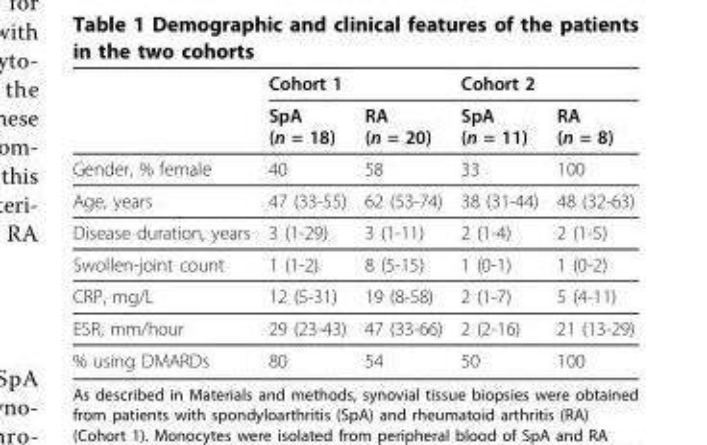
<table><thead><tr><td rowspan="2"></td><td colspan="2">Cohort 1</td><td colspan="2">Cohort 2</td></tr><tr><td>SpA (n = 18)</td><td>RA (n = 20)</td><td>SpA (n = 11)</td><td>RA (n = 8)</td></tr></thead><tbody><tr><td>Gender, % female</td><td>40</td><td>58</td><td>33</td><td>100</td></tr><tr><td>Age, years</td><td>47 (33-55)</td><td>62 (53-74)</td><td>38 (31-44)</td><td>48 (32-63)</td></tr><tr><td>Disease duration, years</td><td>3 (1-29)</td><td>3 (1-11)</td><td>2 (1-4)</td><td>2 (1-5)</td></tr><tr><td>Swollen-joint count</td><td>1 (1-2)</td><td>8 (5-15)</td><td>1 (0-1)</td><td>1 (0-2)</td></tr><tr><td>CRP, mg/L</td><td>12 (5-31)</td><td>19 (8-58)</td><td>2 (1-7)</td><td>5 (4-11)</td></tr><tr><td>ESR, mm/hour</td><td>29 (23-43)</td><td>47 (33-66)</td><td>2 (2-16)</td><td>21 (13-29)</td></tr><tr><td>% using DMARDs</td><td>80</td><td>54</td><td>50</td><td>100</td></tr></tbody></table>